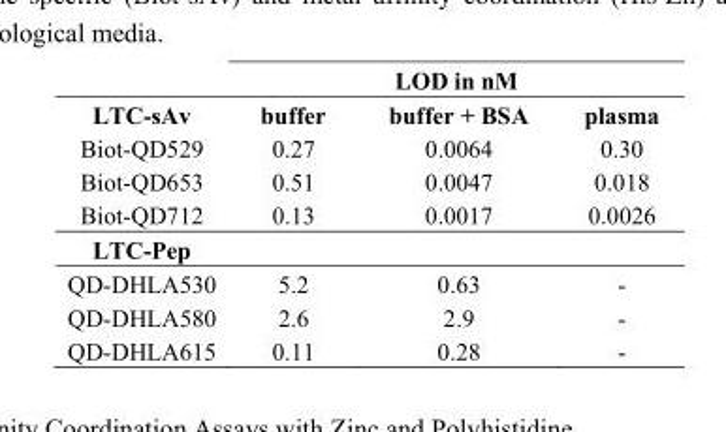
<table><thead><tr><td rowspan="2">LTC-sAv</td><td colspan="3">LOD in nM</td></tr><tr><td>buffer</td><td>buffer + BSA</td><td>plasma</td></tr></thead><tbody><tr><td>Biot-QD529</td><td>0.27</td><td>0.0064</td><td>0.30</td></tr><tr><td>Biot-QD653</td><td>0.51</td><td>0.0047</td><td>0.018</td></tr><tr><td>Biot-QD712</td><td>0.13</td><td>0.0017</td><td>0.0026</td></tr><tr><td colspan="4">LTC-Pep</td></tr><tr><td>QD-DHLA530</td><td>5.2</td><td>0.63</td><td>-</td></tr><tr><td>QD-DHLA580</td><td>2.6</td><td>2.9</td><td>-</td></tr><tr><td>QD-DHLA615</td><td>0.11</td><td>0.28</td><td>-</td></tr></tbody></table>